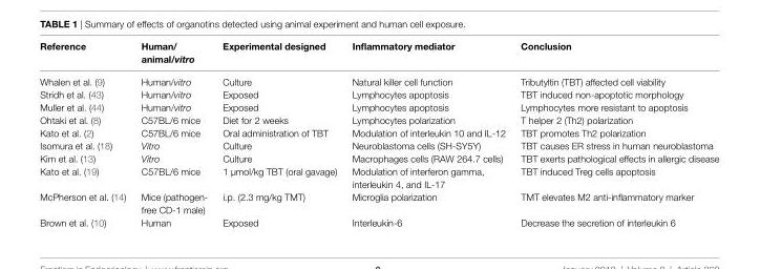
<table><thead><tr><td>Reference</td><td>Human/ animal/vitro</td><td>experimental designed</td><td>inflammatory mediator</td><td>Conclusion</td></tr></thead><tbody><tr><td>Whalen et al. (9)</td><td>Human/vitro</td><td>Culture</td><td>Natural killer cell function</td><td>Tributyltin (TBT) affected cell viability</td></tr><tr><td>Stridh et al. (43)</td><td>Human/vitro</td><td>Exposed</td><td>Lymphocytes apoptosis</td><td>TBT induced non-apoptotic morphology</td></tr><tr><td>Muller et al. (44)</td><td>Human/vitro</td><td>Exposed</td><td>Lymphocytes apoptosis</td><td>Lymphocytes more resistant to apoptosis</td></tr><tr><td>Ohtaki et al. (8)</td><td>C57BL/6 mice</td><td>Diet for 2 weeks</td><td>Lymphocytes polarization</td><td>T helper 2 (Th2) polarization</td></tr><tr><td>Kato et al. (2)</td><td>C57BL/6 mice</td><td>Oral administration of TBT</td><td>Modulation of interleukin 10 and IL-12</td><td>TBT promotes Th2 polarization</td></tr><tr><td>Isomura et al. (18)</td><td>Vitro</td><td>Culture</td><td>Neuroblastoma cells (SH-SY5Y)</td><td>TBT causes ER stress in human neuroblastoma</td></tr><tr><td>Kim et al. (13)</td><td>Vitro</td><td>Culture</td><td>Macrophages cells (RAW 264.7 cells)</td><td>TBT exerts pathological effects in allergic disease</td></tr><tr><td>Kato et al. (19)</td><td>C57BL/6 mice</td><td>1 µmol/kg TBT (oral gavage)</td><td>Modulation of interferon gamma, interleukin 4, and IL-17</td><td>TBT induced Treg cells apoptosis</td></tr><tr><td>McPherson et al. (14)</td><td>Mice (pathogen- free CD-1 male)</td><td>i.p. (2.3 mg/kg TMT)</td><td>Microglia polarization</td><td>TMT elevates M2 anti-inflammatory marker</td></tr><tr><td>Brown et al. (10)</td><td>Human</td><td>Exposed</td><td>Interleukin-6</td><td>Decrease the secretion of interleukin 6</td></tr></tbody></table>